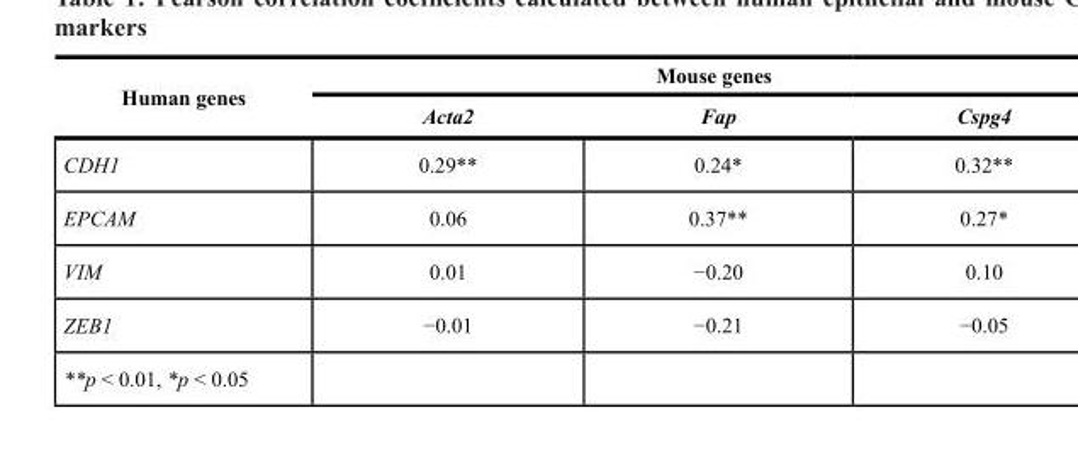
<table><thead><tr><td rowspan="2">Human genes</td><td colspan="3">Mouse genes</td></tr><tr><td>Acta2</td><td>Fap</td><td>Cspg4</td></tr></thead><tbody><tr><td>CDH1</td><td>0.29**</td><td>0.24*</td><td>0.32**</td></tr><tr><td>EPCAM</td><td>0.06</td><td>0.37**</td><td>0.27*</td></tr><tr><td>VIM</td><td>0.01</td><td>−0.20</td><td>0.10</td></tr><tr><td>ZEB1</td><td>−0.01</td><td>−0.21</td><td>−0.05</td></tr><tr><td>**p &lt; 0.01, *p &lt; 0.05</td><td></td><td></td><td></td></tr></tbody></table>